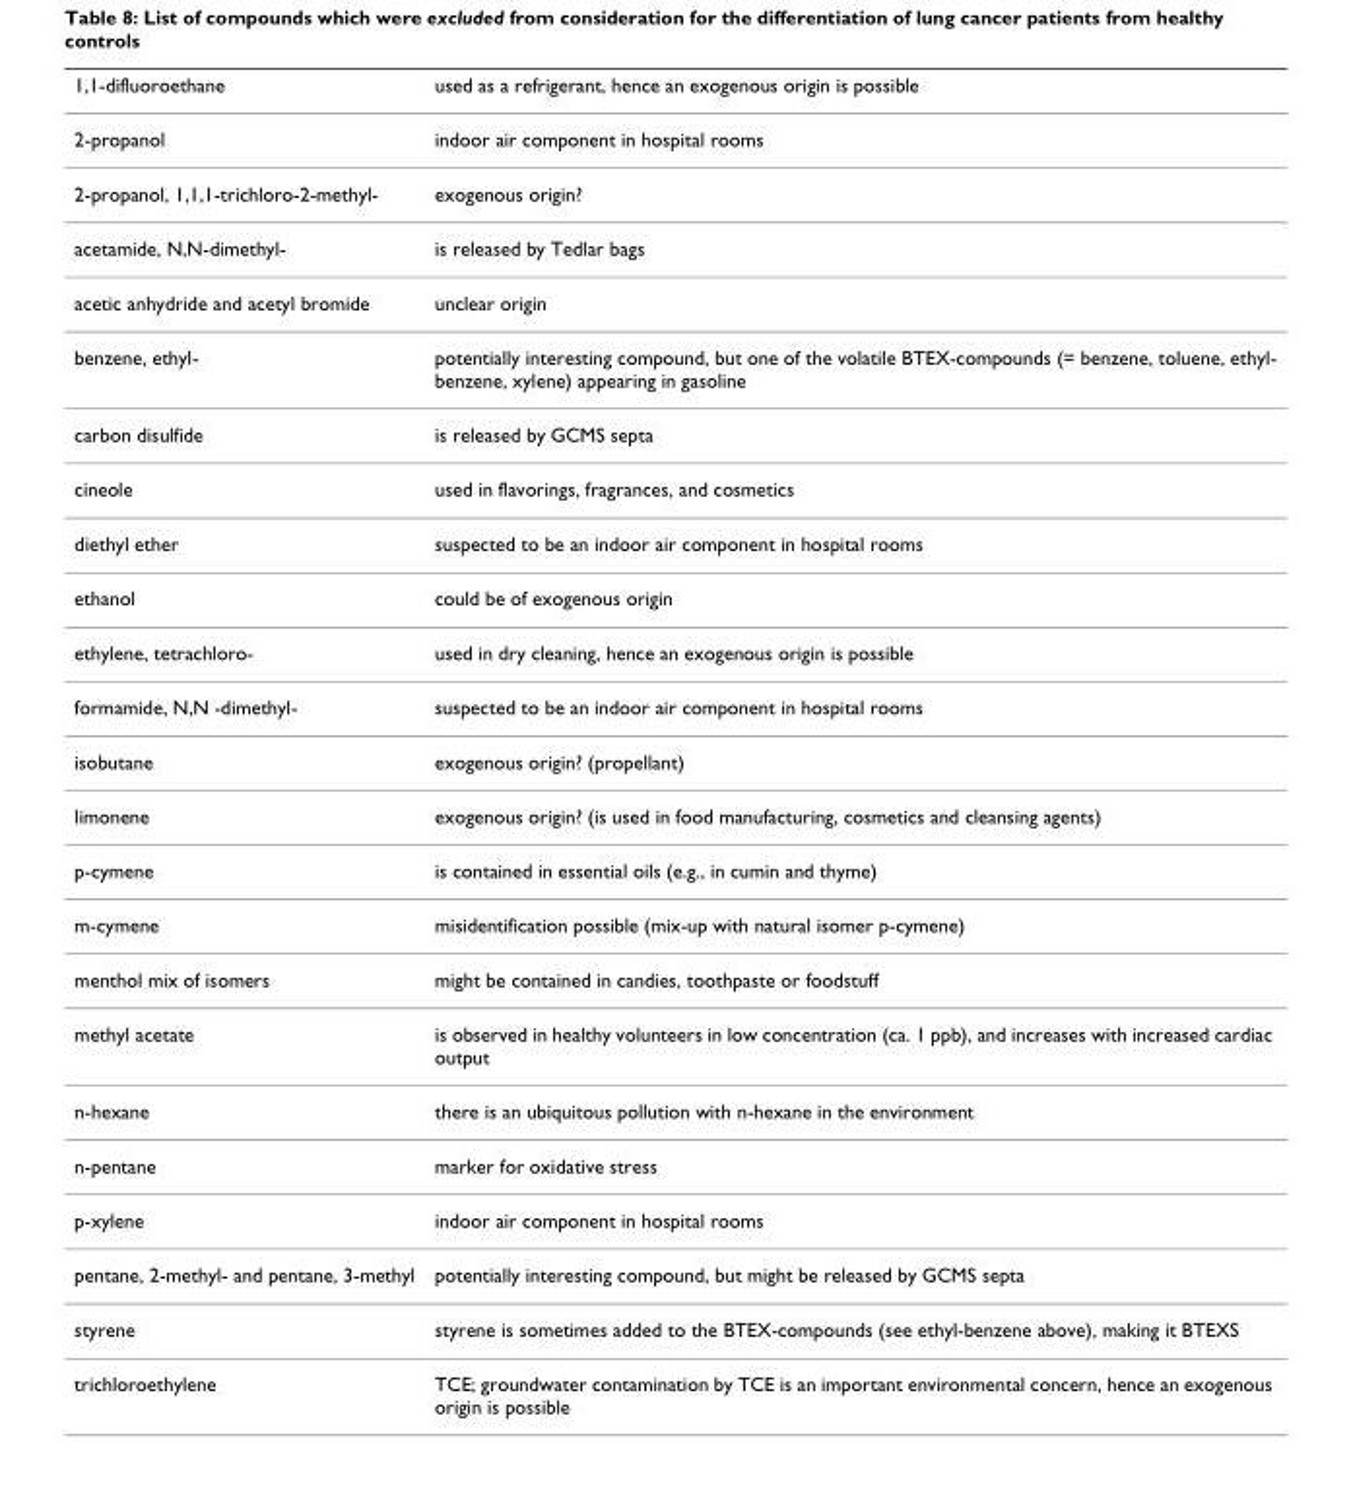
<table><thead><tr><td>1,1-difluoroethane</td><td>used as a refrigerant, hence an exogenous origin is possible</td></tr></thead><tbody><tr><td>2-propanol</td><td>indoor air component in hospital rooms</td></tr><tr><td>2-propanol, 1,1,1-trichloro-2-methyl-</td><td>exogenous origin?</td></tr><tr><td>acetamide, N,N-dimethyl-</td><td>is released by Tedlar bags</td></tr><tr><td>acetic anhydride and acetyl bromide</td><td>unclear origin</td></tr><tr><td>benzene, ethyl-</td><td>potentially interesting compound, but one of the volatile BTEX-compounds (= benzene, toluene, ethyl- benzene, xylene) appearing in gasoline</td></tr><tr><td>carbon disulfide</td><td>is released by GCMS septa</td></tr><tr><td>cineole</td><td>used in flavorings, fragrances, and cosmetics</td></tr><tr><td>diethyl ether</td><td>suspected to be an indoor air component in hospital rooms</td></tr><tr><td>ethanol</td><td>could be of exogenous origin</td></tr><tr><td>ethylene, tetrachloro-</td><td>used in dry cleaning, hence an exogenous origin is possible</td></tr><tr><td>formamide, N,N -dimethyl-</td><td>suspected to be an indoor air component in hospital rooms</td></tr><tr><td>isobutane</td><td>exogenous origin? (propellant)</td></tr><tr><td>limonene</td><td>exogenous origin? (is used in food manufacturing, cosmetics and cleansing agents)</td></tr><tr><td>p-cymene</td><td>is contained in essential oils (e.g., in cumin and thyme)</td></tr><tr><td>m-cymene</td><td>misidentification possible (mix-up with natural isomer p-cymene)</td></tr><tr><td>menthol mix of isomers</td><td>might be contained in candies, toothpaste or foodstuff</td></tr><tr><td>methyl acetate</td><td>is observed in healthy volunteers in low concentration (ca. 1 ppb), and increases with increased cardiac output</td></tr><tr><td>n-hexane</td><td>there is an ubiquitous pollution with n-hexane in the environment</td></tr><tr><td>n-pentane</td><td>marker for oxidative stress</td></tr><tr><td>p-xylene</td><td>indoor air component in hospital rooms</td></tr><tr><td>pentane, 2-methyl- and pentane, 3-methyl</td><td>potentially interesting compound, but might be released by GCMS septa</td></tr><tr><td>styrene</td><td>styrene is sometimes added to the BTEX-compounds (see ethyl-benzene above), making it BTEXS</td></tr><tr><td>trichloroethylene</td><td>TCE; groundwater contamination by TCE is an important environmental concern, hence an exogenous origin is possible</td></tr></tbody></table>